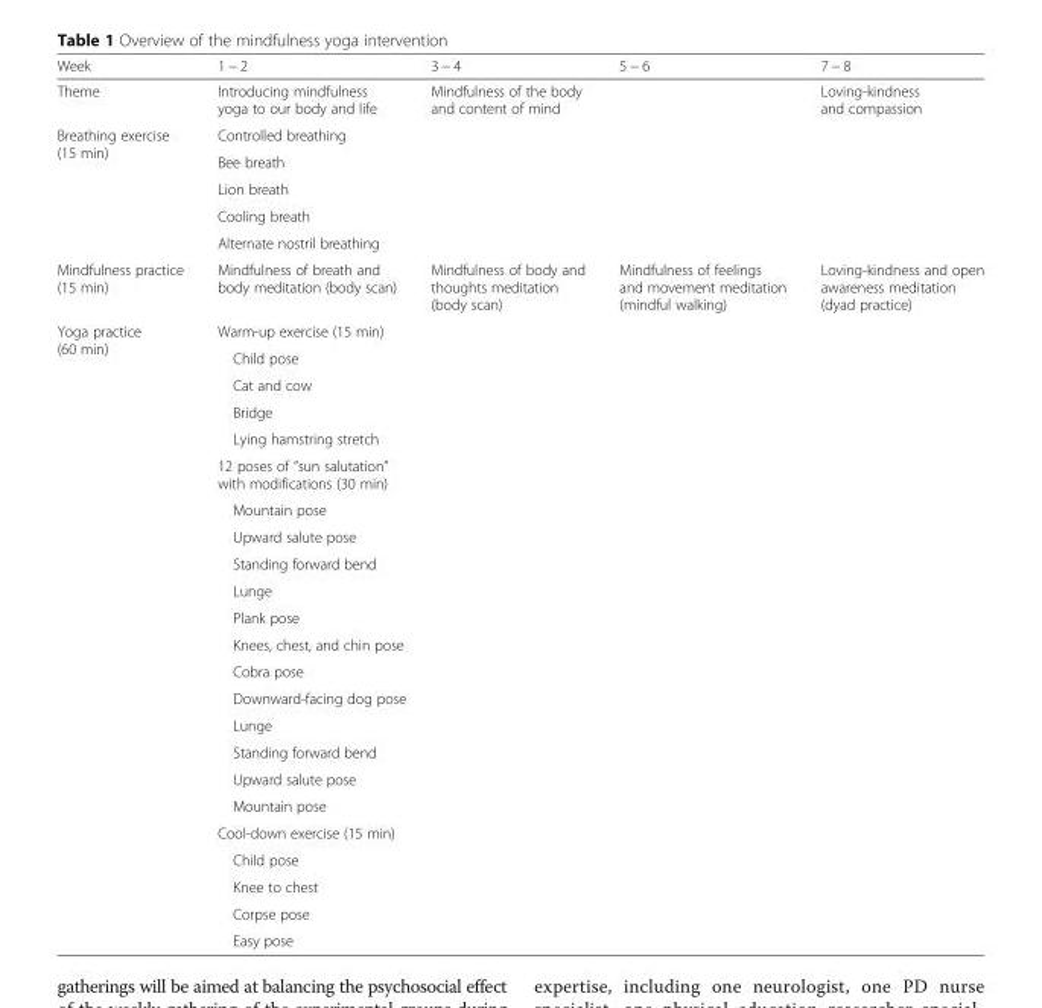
<table><thead><tr><td>Week</td><td>1 − 2</td><td>3 − 4</td><td>5 − 6</td><td>7 − 8</td></tr></thead><tbody><tr><td>Theme</td><td>Introducing mindfulness yoga to our body and life</td><td colspan="2">Mindfulness of the body and content of mind</td><td>Loving-kindness and compassion</td></tr><tr><td rowspan="5">Breathing exercise (15 min)</td><td colspan="4">Controlled breathing</td></tr><tr><td colspan="4">Bee breath</td></tr><tr><td colspan="4">Lion breath</td></tr><tr><td colspan="4">Cooling breath</td></tr><tr><td colspan="4">Alternate nostril breathing</td></tr><tr><td>Mindfulness practice (15 min)</td><td>Mindfulness of breath and body meditation (body scan)</td><td>Mindfulness of body and thoughts meditation (body scan)</td><td>Mindfulness of feelings and movement meditation (mindful walking)</td><td>Loving-kindness and open awareness meditation (dyad practice)</td></tr><tr><td rowspan="23">Yoga practice (60 min)</td><td colspan="4">Warm-up exercise (15 min)</td></tr><tr><td colspan="4">Child pose</td></tr><tr><td colspan="4">Cat and cow</td></tr><tr><td colspan="4">Bridge</td></tr><tr><td colspan="4">Lying hamstring stretch</td></tr><tr><td colspan="4">12 poses of “sun salutation” with modifications (30 min)</td></tr><tr><td colspan="4">Mountain pose</td></tr><tr><td colspan="4">Upward salute pose</td></tr><tr><td colspan="4">Standing forward bend</td></tr><tr><td colspan="4">Lunge</td></tr><tr><td colspan="4">Plank pose</td></tr><tr><td colspan="4">Knees, chest, and chin pose</td></tr><tr><td colspan="4">Cobra pose</td></tr><tr><td colspan="4">Downward-facing dog pose</td></tr><tr><td colspan="4">Lunge</td></tr><tr><td colspan="4">Standing forward bend</td></tr><tr><td colspan="4">Upward salute pose</td></tr><tr><td colspan="4">Mountain pose</td></tr><tr><td colspan="4">Cool-down exercise (15 min)</td></tr><tr><td colspan="4">Child pose</td></tr><tr><td colspan="4">Knee to chest</td></tr><tr><td colspan="4">Corpse pose</td></tr><tr><td colspan="4">Easy pose</td></tr></tbody></table>